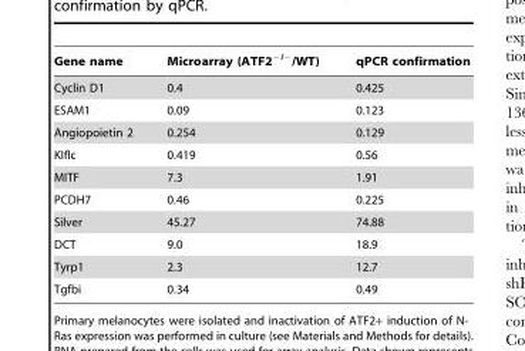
<table><thead><tr><td>Gene name</td><td>Microarray (ATF2<sup>−/−</sup>/WT)</td><td>qPCR confirmation</td></tr></thead><tbody><tr><td>Cyclin D1</td><td>0.4</td><td>0.425</td></tr><tr><td>ESAM1</td><td>0.09</td><td>0.123</td></tr><tr><td>Angiopoietin 2</td><td>0.254</td><td>0.129</td></tr><tr><td>KIflc</td><td>0.419</td><td>0.56</td></tr><tr><td>MITF</td><td>7.3</td><td>1.91</td></tr><tr><td>PCDH7</td><td>0.46</td><td>0.225</td></tr><tr><td>Silver</td><td>45.27</td><td>74.88</td></tr><tr><td>DCT</td><td>9.0</td><td>18.9</td></tr><tr><td>Tyrp1</td><td>2.3</td><td>12.7</td></tr><tr><td>Tgfbi</td><td>0.34</td><td>0.49</td></tr></tbody></table>